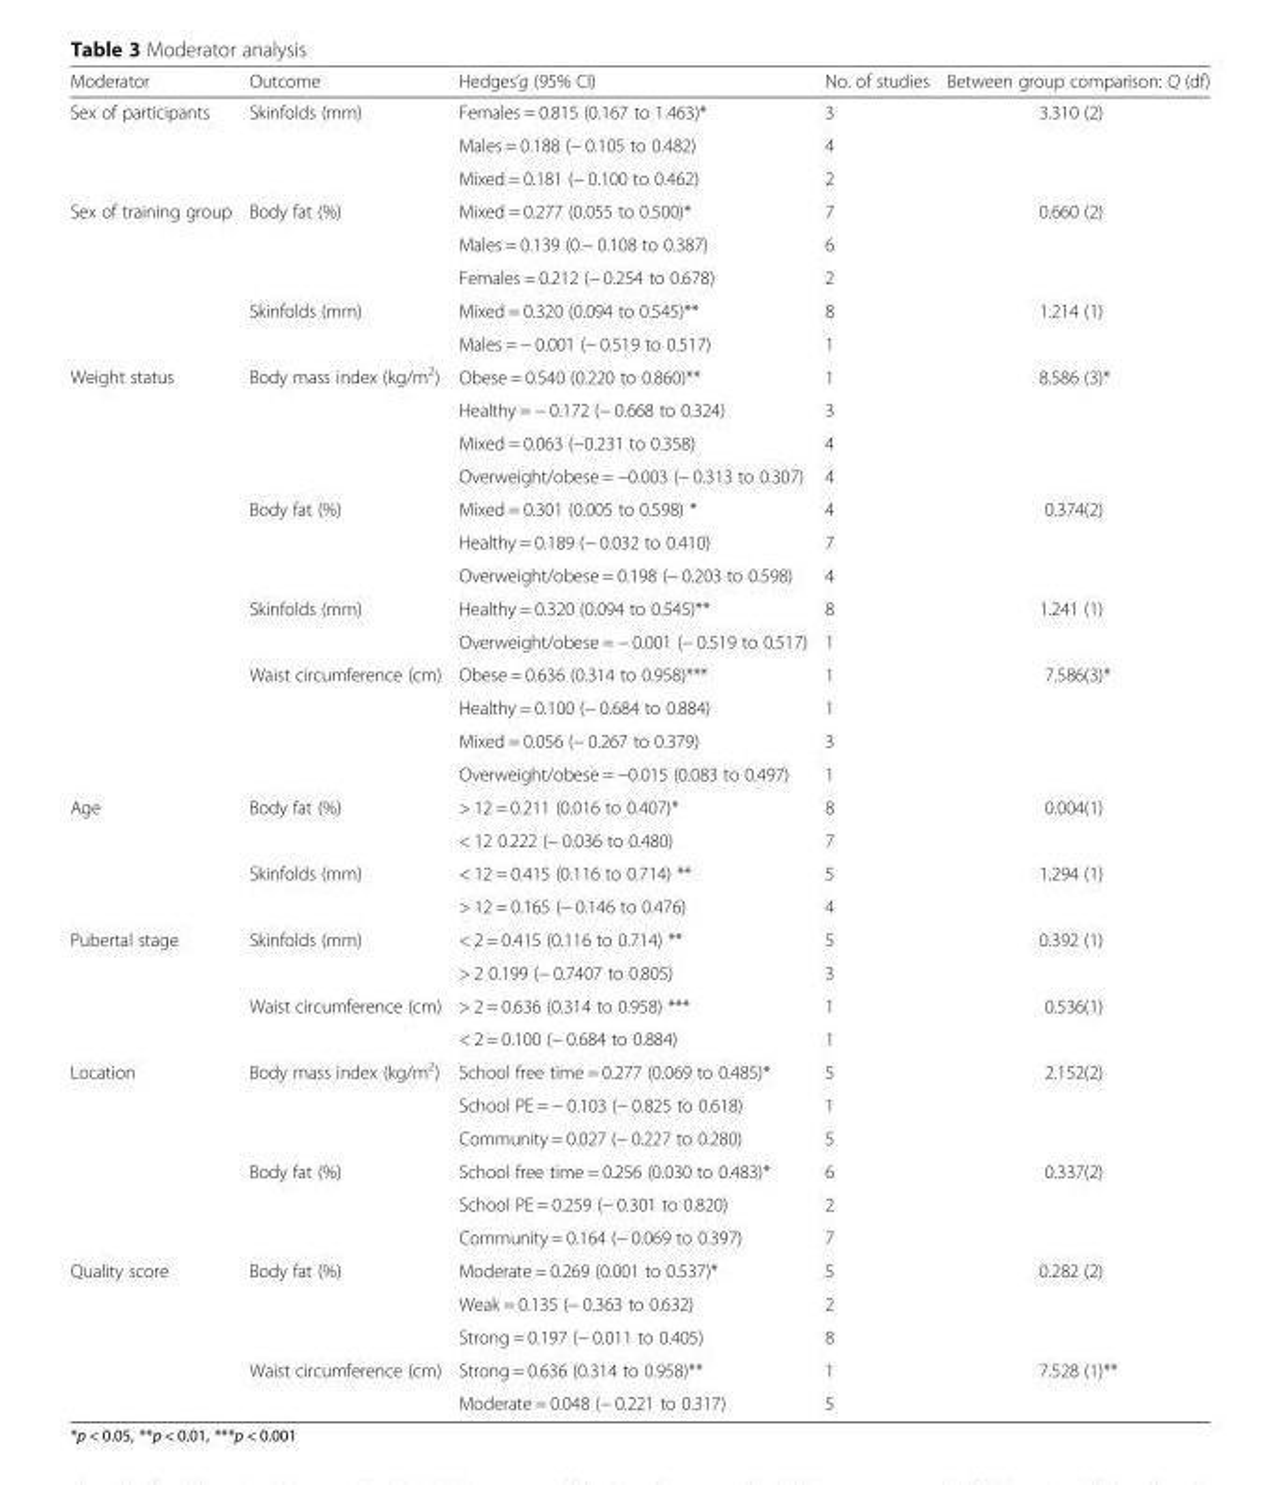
<table><thead><tr><td>Moderator</td><td>Outcome</td><td>Hedges’g (95% CI)</td><td>No. of studies</td><td>Between group comparison: Q (df)</td></tr></thead><tbody><tr><td rowspan="3">Sex of participants</td><td rowspan="3">Skinfolds (mm)</td><td>Females = 0.815 (0.167 to 1.463)*</td><td>3</td><td rowspan="3">3.310 (2)</td></tr><tr><td>Males = 0.188 (− 0.105 to 0.482)</td><td>4</td></tr><tr><td>Mixed = 0.181 (− 0.100 to 0.462)</td><td>2</td></tr><tr><td rowspan="5">Sex of training group</td><td rowspan="3">Body fat (%)</td><td>Mixed = 0.277 (0.055 to 0.500)*</td><td>7</td><td rowspan="3">0.660 (2)</td></tr><tr><td>Males = 0.139 (0.− 0.108 to 0.387)</td><td>6</td></tr><tr><td>Females = 0.212 (− 0.254 to 0.678)</td><td>2</td></tr><tr><td rowspan="2">Skinfolds (mm)</td><td>Mixed = 0.320 (0.094 to 0.545)**</td><td>8</td><td rowspan="2">1.214 (1)</td></tr><tr><td>Males = − 0.001 (− 0.519 to 0.517)</td><td>1</td></tr><tr><td rowspan="13">Weight status</td><td rowspan="4">Body mass index (kg/m<sup>2</sup>)</td><td>Obese = 0.540 (0.220 to 0.860)**</td><td>1</td><td rowspan="4">8.586 (3)*</td></tr><tr><td>Healthy = − 0.172 (− 0.668 to 0.324)</td><td>3</td></tr><tr><td>Mixed = 0.063 (−0.231 to 0.358)</td><td>4</td></tr><tr><td>Overweight/obese = −0.003 (− 0.313 to 0.307)</td><td>4</td></tr><tr><td rowspan="3">Body fat (%)</td><td>Mixed = 0.301 (0.005 to 0.598) *</td><td>4</td><td rowspan="3">0.374(2)</td></tr><tr><td>Healthy = 0.189 (− 0.032 to 0.410)</td><td>7</td></tr><tr><td>Overweight/obese = 0.198 (− 0.203 to 0.598)</td><td>4</td></tr><tr><td rowspan="2">Skinfolds (mm)</td><td>Healthy = 0.320 (0.094 to 0.545)**</td><td>8</td><td rowspan="2">1.241 (1)</td></tr><tr><td>Overweight/obese = − 0.001 (− 0.519 to 0.517)</td><td>1</td></tr><tr><td rowspan="4">Waist circumference (cm)</td><td>Obese = 0.636 (0.314 to 0.958)***</td><td>1</td><td rowspan="4">7.586(3)*</td></tr><tr><td>Healthy = 0.100 (− 0.684 to 0.884)</td><td>1</td></tr><tr><td>Mixed = 0.056 (− 0.267 to 0.379)</td><td>3</td></tr><tr><td>Overweight/obese = −0.015 (0.083 to 0.497)</td><td>1</td></tr><tr><td rowspan="4">Age</td><td rowspan="2">Body fat (%)</td><td>&gt; 12 = 0.211 (0.016 to 0.407)*</td><td>8</td><td rowspan="2">0.004(1)</td></tr><tr><td>&lt; 12 0.222 (− 0.036 to 0.480)</td><td>7</td></tr><tr><td rowspan="2">Skinfolds (mm)</td><td>&lt; 12 = 0.415 (0.116 to 0.714) **</td><td>5</td><td rowspan="2">1.294 (1)</td></tr><tr><td>&gt; 12 = 0.165 (− 0.146 to 0.476)</td><td>4</td></tr><tr><td rowspan="4">Pubertal stage</td><td rowspan="2">Skinfolds (mm)</td><td>&lt; 2 = 0.415 (0.116 to 0.714) **</td><td>5</td><td rowspan="2">0.392 (1)</td></tr><tr><td>&gt; 2 0.199 (− 0.7407 to 0.805)</td><td>3</td></tr><tr><td rowspan="2">Waist circumference (cm)</td><td>&gt; 2 = 0.636 (0.314 to 0.958) ***</td><td>1</td><td rowspan="2">0.536(1)</td></tr><tr><td>&lt; 2 = 0.100 (− 0.684 to 0.884)</td><td>1</td></tr><tr><td rowspan="6">Location</td><td rowspan="3">Body mass index (kg/m<sup>2</sup>)</td><td>School free time = 0.277 (0.069 to 0.485)*</td><td>5</td><td rowspan="3">2.152(2)</td></tr><tr><td>School PE = − 0.103 (− 0.825 to 0.618)</td><td>1</td></tr><tr><td>Community = 0.027 (− 0.227 to 0.280)</td><td>5</td></tr><tr><td rowspan="3">Body fat (%)</td><td>School free time = 0.256 (0.030 to 0.483)*</td><td>6</td><td rowspan="3">0.337(2)</td></tr><tr><td>School PE = 0.259 (− 0.301 to 0.820)</td><td>2</td></tr><tr><td>Community = 0.164 (− 0.069 to 0.397)</td><td>7</td></tr><tr><td rowspan="5">Quality score</td><td rowspan="3">Body fat (%)</td><td>Moderate = 0.269 (0.001 to 0.537)*</td><td>5</td><td rowspan="3">0.282 (2)</td></tr><tr><td>Weak = 0.135 (− 0.363 to 0.632)</td><td>2</td></tr><tr><td>Strong = 0.197 (− 0.011 to 0.405)</td><td>8</td></tr><tr><td rowspan="2">Waist circumference (cm)</td><td>Strong = 0.636 (0.314 to 0.958)**</td><td>1</td><td rowspan="2">7.528 (1)**</td></tr><tr><td>Moderate = 0.048 (− 0.221 to 0.317)</td><td>5</td></tr></tbody></table>